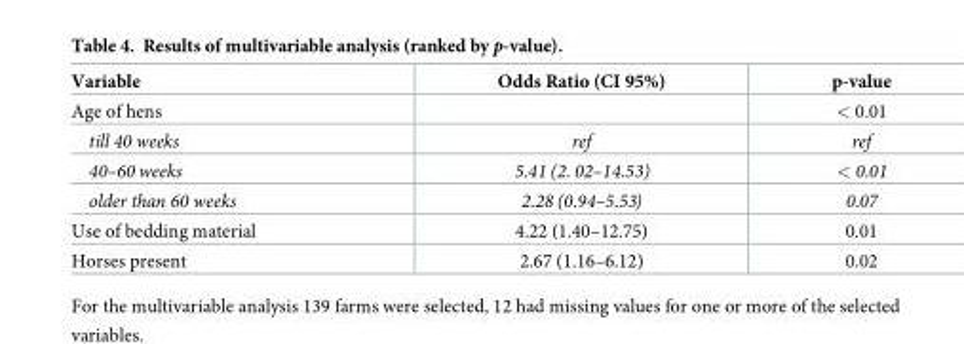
<table><thead><tr><td>Variable</td><td>Odds Ratio (CI 95%)</td><td>p-value</td></tr></thead><tbody><tr><td>Age of hens</td><td></td><td>&lt; 0.01</td></tr><tr><td>till 40 weeks</td><td>ref</td><td>ref</td></tr><tr><td>40–60 weeks</td><td>5.41 (2. 02–14.53)</td><td>&lt; 0.01</td></tr><tr><td>older than 60 weeks</td><td>2.28 (0.94–5.53)</td><td>0.07</td></tr><tr><td>Use of bedding material</td><td>4.22 (1.40–12.75)</td><td>0.01</td></tr><tr><td>Horses present</td><td>2.67 (1.16–6.12)</td><td>0.02</td></tr></tbody></table>